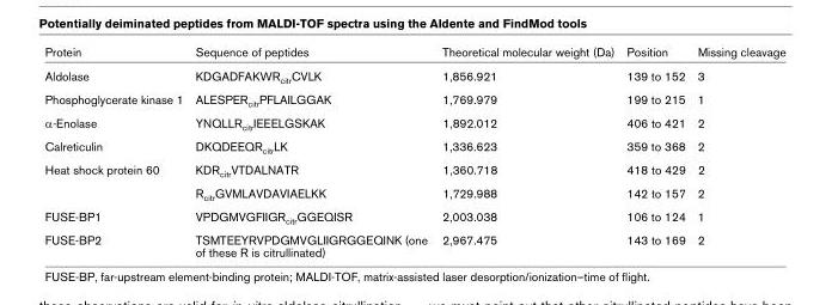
<table><thead><tr><td>Protein</td><td>Sequence of peptides</td><td>Theoretical molecular weight (Da)</td><td>Position</td><td>Missing cleavage</td></tr></thead><tbody><tr><td>Aldolase</td><td>KDGADFAKWR<sub>citr</sub>CVLK</td><td>1,856.921</td><td>139 to 152</td><td>3</td></tr><tr><td>Phosphoglycerate kinase 1</td><td>ALESPER<sub>citr</sub>PFLAILGGAK</td><td>1,769.979</td><td>199 to 215</td><td>1</td></tr><tr><td>α-Enolase</td><td>YNQLLR<sub>citr</sub>IEEELGSKAK</td><td>1,892.012</td><td>406 to 421</td><td>2</td></tr><tr><td>Calreticulin</td><td>DKQDEEQR<sub>citr</sub>LK</td><td>1,336.623</td><td>359 to 368</td><td>2</td></tr><tr><td rowspan="2">Heat shock protein 60</td><td>KDR<sub>citr</sub>VTDALNATR</td><td>1,360.718</td><td>418 to 429</td><td>2</td></tr><tr><td>R<sub>citr</sub>GVMLAVDAVIAELKK</td><td>1,729.988</td><td>142 to 157</td><td>2</td></tr><tr><td>FUSE-BP1</td><td>VPDGMVGFIIGR<sub>citr</sub>GGEQISR</td><td>2,003.038</td><td>106 to 124</td><td>1</td></tr><tr><td>FUSE-BP2</td><td>TSMTEEYRVPDGMVGLIIGRGGEQINK (one of these R is citrullinated)</td><td>2,967.475</td><td>143 to 169</td><td>2</td></tr></tbody></table>